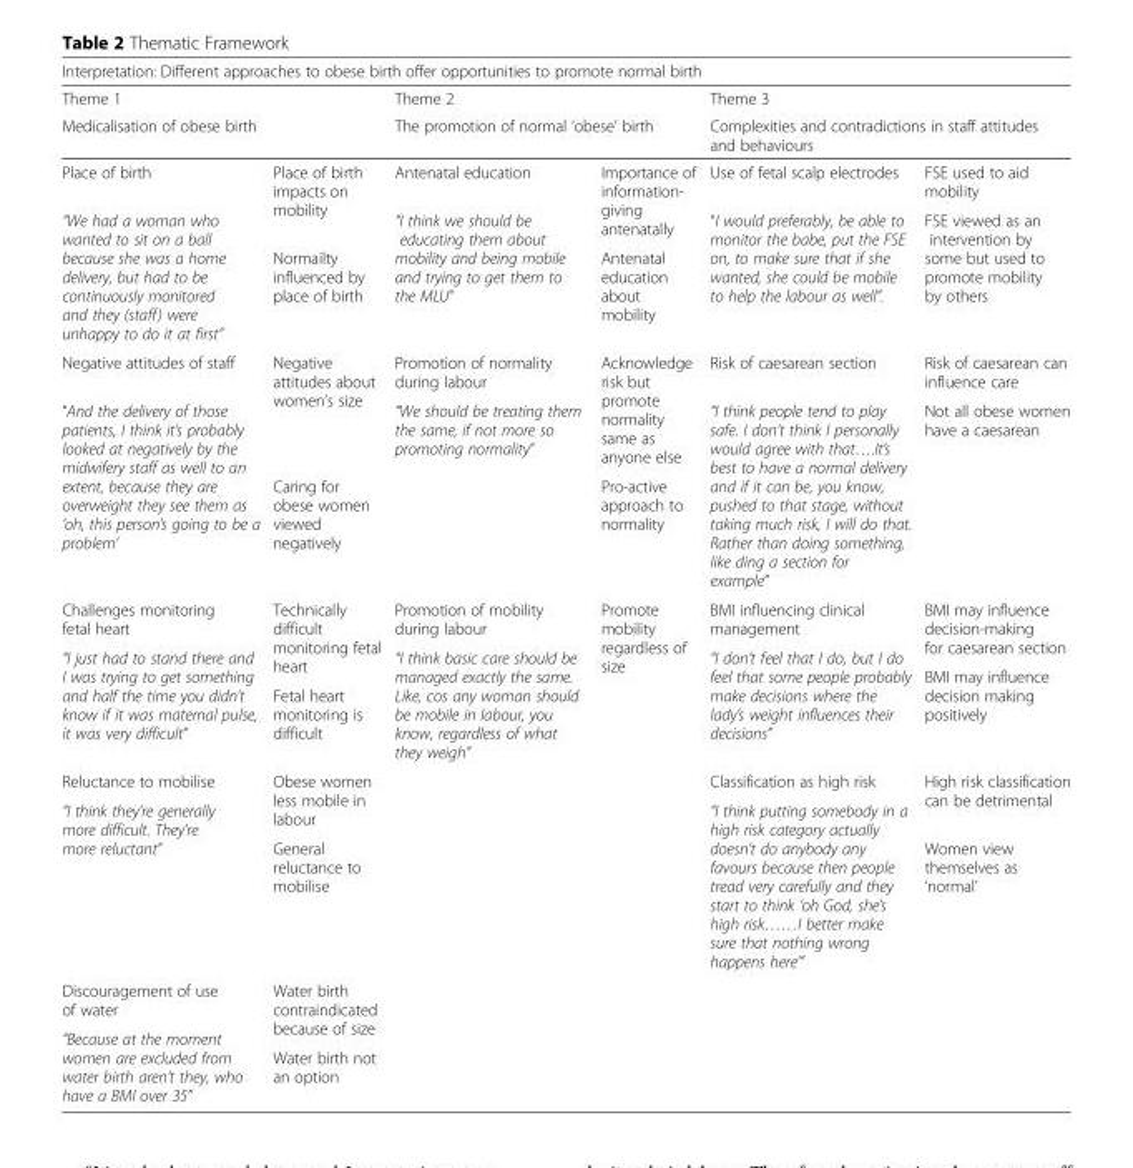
<table><thead><tr><td colspan="6">Interpretation: Different approaches to obese birth offer opportunities to promote normal birth</td></tr><tr><td>Theme 1</td><td></td><td>Theme 2</td><td></td><td>Theme 3</td><td></td></tr><tr><td colspan="2">Medicalisation of obese birth</td><td colspan="2">The promotion of normal ‘obese’ birth</td><td colspan="2">Complexities and contradictions in staff attitudes and behaviours</td></tr></thead><tbody><tr><td>Place of birth</td><td rowspan="2">Place of birth impacts on mobility</td><td>Antenatal education</td><td rowspan="2">Importance of information- giving antenatally</td><td>Use of fetal scalp electrodes</td><td>FSE used to aid mobility</td></tr><tr><td rowspan="2">“We had a woman who wanted to sit on a ball because she was a home delivery, but had to be continuously monitored and they (staff) were unhappy to do it at first”</td><td rowspan="2">“I think we should be educating them about mobility and being mobile and trying to get them to the MLU”</td><td rowspan="2">“I would preferably, be able to monitor the babe, put the FSE on, to make sure that if she wanted, she could be mobile to help the labour as well”.</td><td rowspan="2">FSE viewed as an intervention by some but used to promote mobility by others</td></tr><tr><td>Normailty influenced by place of birth</td><td>Antenatal education about mobility</td></tr><tr><td>Negative attitudes of staff</td><td rowspan="2">Negative attitudes about women’s size</td><td>Promotion of normality during labour</td><td rowspan="2">Acknowledge risk but promote normality same as anyone else</td><td>Risk of caesarean section</td><td>Risk of caesarean can influence care</td></tr><tr><td rowspan="2">“And the delivery of those patients, I think it’s probably looked at negatively by the midwifery staff as well to an extent, because they are overweight they see them as ‘oh, this person’s going to be a problem’</td><td rowspan="2">“We should be treating them the same, if not more so promoting normality”</td><td rowspan="2">“I think people tend to play safe. I don’t think I personally would agree with that….It’s best to have a normal delivery and if it can be, you know, pushed to that stage, without taking much risk, I will do that. Rather than doing something, like ding a section for example”</td><td rowspan="2">Not all obese women have a caesarean</td></tr><tr><td>Caring for obese women viewed negatively</td><td>Pro-active approach to normality</td></tr><tr><td>Challenges monitoring fetal heart</td><td rowspan="3">Technically difficult monitoring fetal heart</td><td>Promotion of mobility during labour</td><td rowspan="4">Promote mobility regardless of size</td><td>BMI influencing clinical management</td><td rowspan="2">BMI may influence decision-making for caesarean section</td></tr><tr><td rowspan="3">“I just had to stand there and I was trying to get something and half the time you didn’t know if it was maternal pulse, it was very difficult”</td><td rowspan="3">“I think basic care should be managed exactly the same. Like, cos any woman should be mobile in labour, you know, regardless of what they weigh”</td><td rowspan="3">“I don’t feel that I do, but I do feel that some people probably make decisions where the lady’s weight influences their decisions”</td></tr><tr><td rowspan="2">BMI may influence decision making positively</td></tr><tr><td>Fetal heart monitoring is difficult</td></tr><tr><td>Reluctance to mobilise</td><td rowspan="2">Obese women less mobile in labour</td><td rowspan="3"></td><td rowspan="3"></td><td>Classification as high risk</td><td rowspan="2">High risk classification can be detrimental</td></tr><tr><td rowspan="2">“I think they’re generally more difficult. They’re more reluctant”</td><td rowspan="2">“I think putting somebody in a high risk category actually doesn’t do anybody any favours because then people tread very carefully and they start to think ‘oh God, she’s high risk……I better make sure that nothing wrong happens here’”</td></tr><tr><td>General reluctance to mobilise</td><td>Women view themselves as ‘normal’</td></tr><tr><td>Discouragement of use of water</td><td rowspan="2">Water birth contraindicated because of size</td><td rowspan="3"></td><td rowspan="3"></td><td rowspan="3"></td><td rowspan="3"></td></tr><tr><td rowspan="2">“Because at the moment women are excluded from water birth aren’t they, who have a BMI over 35”</td></tr><tr><td>Water birth not an option</td></tr></tbody></table>